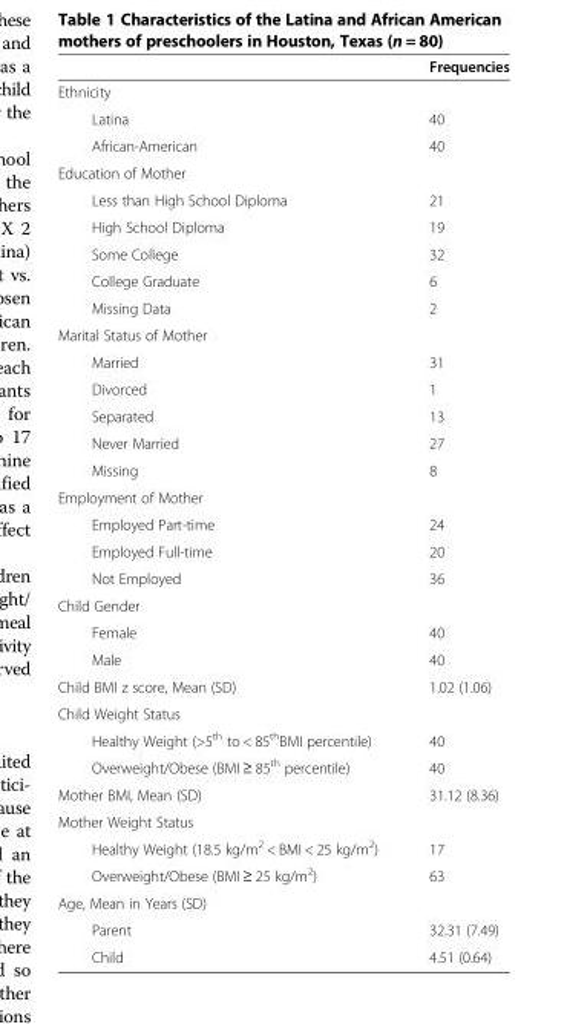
<table><thead><tr><td></td><td>Frequencies</td></tr></thead><tbody><tr><td colspan="2">Ethnicity</td></tr><tr><td>Latina</td><td>40</td></tr><tr><td>African-American</td><td>40</td></tr><tr><td colspan="2">Education of Mother</td></tr><tr><td>Less than High School Diploma</td><td>21</td></tr><tr><td>High School Diploma</td><td>19</td></tr><tr><td>Some College</td><td>32</td></tr><tr><td>College Graduate</td><td>6</td></tr><tr><td>Missing Data</td><td>2</td></tr><tr><td colspan="2">Marital Status of Mother</td></tr><tr><td>Married</td><td>31</td></tr><tr><td>Divorced</td><td>1</td></tr><tr><td>Separated</td><td>13</td></tr><tr><td>Never Married</td><td>27</td></tr><tr><td>Missing</td><td>8</td></tr><tr><td colspan="2">Employment of Mother</td></tr><tr><td>Employed Part-time</td><td>24</td></tr><tr><td>Employed Full-time</td><td>20</td></tr><tr><td>Not Employed</td><td>36</td></tr><tr><td colspan="2">Child Gender</td></tr><tr><td>Female</td><td>40</td></tr><tr><td>Male</td><td>40</td></tr><tr><td>Child BMI z score, Mean (SD)</td><td>1.02 (1.06)</td></tr><tr><td colspan="2">Child Weight Status</td></tr><tr><td>Healthy Weight (&gt;5<sup>th</sup> to &lt; 85<sup>th</sup>BMI percentile)</td><td>40</td></tr><tr><td>Overweight/Obese (BMI ≥ 85<sup>th</sup> percentile)</td><td>40</td></tr><tr><td>Mother BMI, Mean (SD)</td><td>31.12 (8.36)</td></tr><tr><td colspan="2">Mother Weight Status</td></tr><tr><td>Healthy Weight (18.5 kg/m<sup>2</sup> &lt; BMI &lt; 25 kg/m<sup>2</sup>)</td><td>17</td></tr><tr><td>Overweight/Obese (BMI ≥ 25 kg/m<sup>2</sup>)</td><td>63</td></tr><tr><td colspan="2">Age, Mean in Years (SD)</td></tr><tr><td>Parent</td><td>32.31 (7.49)</td></tr><tr><td>Child</td><td>4.51 (0.64)</td></tr></tbody></table>